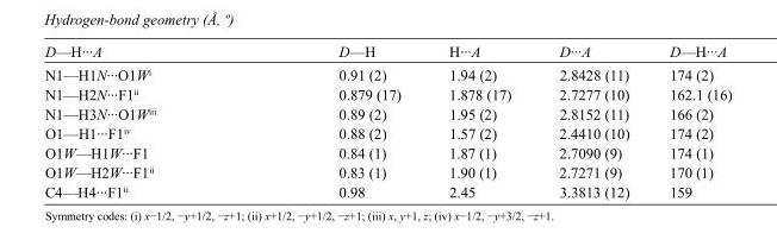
<table><tbody><tr><td>D—H···A</td><td>D—H</td><td>H···A</td><td>D···A</td><td>D—H···A</td></tr><tr><td>N1—H1N···O1W<sup>i</sup></td><td>0.91 (2)</td><td>1.94 (2)</td><td>2.8428 (11)</td><td>174 (2)</td></tr><tr><td>N1—H2N···F1<sup>ii</sup></td><td>0.879 (17)</td><td>1.878 (17)</td><td>2.7277 (10)</td><td>162.1 (16)</td></tr><tr><td>N1—H3N···O1W<sup>iii</sup></td><td>0.89 (2)</td><td>1.95 (2)</td><td>2.8152 (11)</td><td>166 (2)</td></tr><tr><td>O1—H1···F1<sup>iv</sup></td><td>0.88 (2)</td><td>1.57 (2)</td><td>2.4410 (10)</td><td>174 (2)</td></tr><tr><td>O1W—H1W···F1</td><td>0.84 (1)</td><td>1.87 (1)</td><td>2.7090 (9)</td><td>174 (1)</td></tr><tr><td>O1W—H2W···F1<sup>ii</sup></td><td>0.83 (1)</td><td>1.90 (1)</td><td>2.7271 (9)</td><td>170 (1)</td></tr><tr><td>C4—H4···F1<sup>ii</sup></td><td>0.98</td><td>2.45</td><td>3.3813 (12)</td><td>159</td></tr></tbody></table>